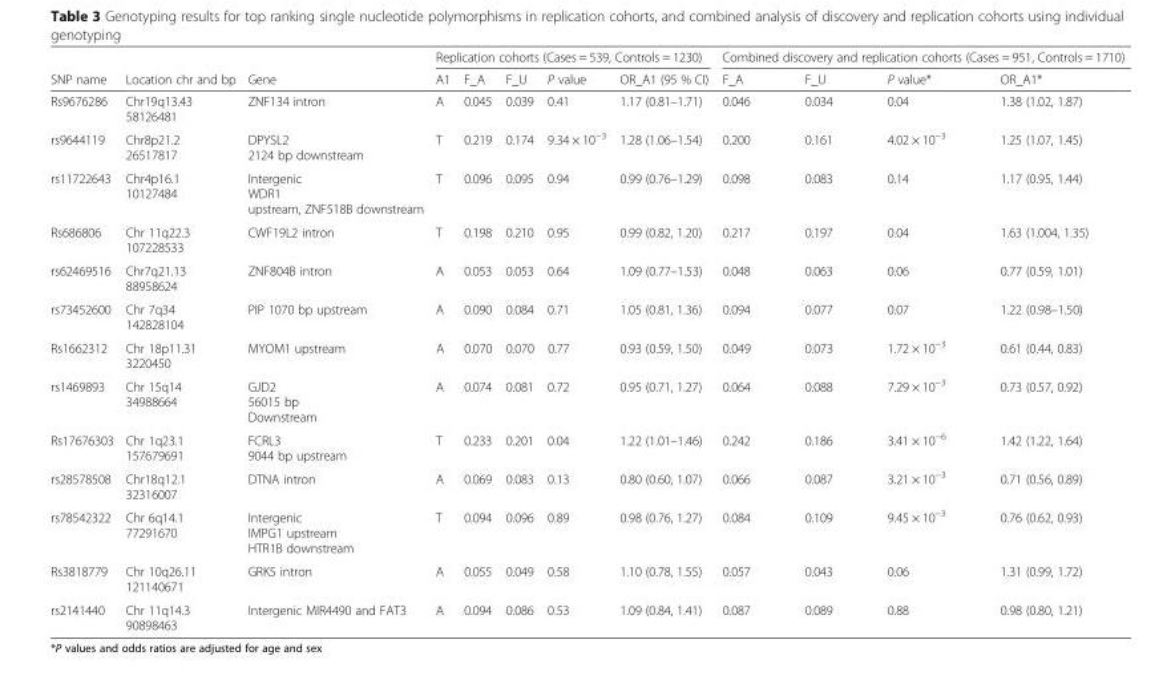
<table><thead><tr><td rowspan="2">SNP name</td><td rowspan="2">Location chr and bp</td><td rowspan="2">Gene</td><td colspan="5">Replication cohorts (Cases = 539, Controls = 1230)</td><td colspan="4">Combined discovery and replication cohorts (Cases = 951, Controls = 1710)</td></tr><tr><td>A1</td><td>F_A</td><td>F_U</td><td>P value</td><td>OR_A1 (95 % CI)</td><td>F_A</td><td>F_U</td><td>P value*</td><td>OR_A1*</td></tr></thead><tbody><tr><td>Rs9676286</td><td>Chr19q13.43 58126481</td><td>ZNF134 intron</td><td>A</td><td>0.045</td><td>0.039</td><td>0.41</td><td>1.17 (0.81–1.71)</td><td>0.046</td><td>0.034</td><td>0.04</td><td>1.38 (1.02, 1.87)</td></tr><tr><td>rs9644119</td><td>Chr8p21.2 26517817</td><td>DPYSL2 2124 bp downstream</td><td>T</td><td>0.219</td><td>0.174</td><td>9.34 × 10<sup>−3</sup></td><td>1.28 (1.06–1.54)</td><td>0.200</td><td>0.161</td><td>4.02 × 10<sup>−3</sup></td><td>1.25 (1.07, 1.45)</td></tr><tr><td>rs11722643</td><td>Chr4p16.1 10127484</td><td>Intergenic WDR1 upstream, ZNF518B downstream</td><td>T</td><td>0.096</td><td>0.095</td><td>0.94</td><td>0.99 (0.76–1.29)</td><td>0.098</td><td>0.083</td><td>0.14</td><td>1.17 (0.95, 1.44)</td></tr><tr><td>Rs686806</td><td>Chr 11q22.3 107228533</td><td>CWF19L2 intron</td><td>T</td><td>0.198</td><td>0.210</td><td>0.95</td><td>0.99 (0.82, 1.20)</td><td>0.217</td><td>0.197</td><td>0.04</td><td>1.63 (1.004, 1.35)</td></tr><tr><td>rs62469516</td><td>Chr7q21.13 88958624</td><td>ZNF804B intron</td><td>A</td><td>0.053</td><td>0.053</td><td>0.64</td><td>1.09 (0.77–1.53)</td><td>0.048</td><td>0.063</td><td>0.06</td><td>0.77 (0.59, 1.01)</td></tr><tr><td>rs73452600</td><td>Chr 7q34 142828104</td><td>PIP 1070 bp upstream</td><td>A</td><td>0.090</td><td>0.084</td><td>0.71</td><td>1.05 (0.81, 1.36)</td><td>0.094</td><td>0.077</td><td>0.07</td><td>1.22 (0.98–1.50)</td></tr><tr><td>Rs1662312</td><td>Chr 18p11.31 3220450</td><td>MYOM1 upstream</td><td>A</td><td>0.070</td><td>0.070</td><td>0.77</td><td>0.93 (0.59, 1.50)</td><td>0.049</td><td>0.073</td><td>1.72 × 10<sup>−3</sup></td><td>0.61 (0.44, 0.83)</td></tr><tr><td>rs1469893</td><td>Chr 15q14 34988664</td><td>GJD2 56015 bp Downstream</td><td>A</td><td>0.074</td><td>0.081</td><td>0.72</td><td>0.95 (0.71, 1.27)</td><td>0.064</td><td>0.088</td><td>7.29 × 10<sup>−3</sup></td><td>0.73 (0.57, 0.92)</td></tr><tr><td>Rs17676303</td><td>Chr 1q23.1 157679691</td><td>FCRL3 9044 bp upstream</td><td>T</td><td>0.233</td><td>0.201</td><td>0.04</td><td>1.22 (1.01–1.46)</td><td>0.242</td><td>0.186</td><td>3.41 × 10<sup>−6</sup></td><td>1.42 (1.22, 1.64)</td></tr><tr><td>rs28578508</td><td>Chr18q12.1 32316007</td><td>DTNA intron</td><td>A</td><td>0.069</td><td>0.083</td><td>0.13</td><td>0.80 (0.60, 1.07)</td><td>0.066</td><td>0.087</td><td>3.21 × 10<sup>−3</sup></td><td>0.71 (0.56, 0.89)</td></tr><tr><td>rs78542322</td><td>Chr 6q14.1 77291670</td><td>Intergenic IMPG1 upstream HTR1B downstream</td><td>T</td><td>0.094</td><td>0.096</td><td>0.89</td><td>0.98 (0.76, 1.27)</td><td>0.084</td><td>0.109</td><td>9.45 × 10<sup>−3</sup></td><td>0.76 (0.62, 0.93)</td></tr><tr><td>Rs3818779</td><td>Chr 10q26.11 121140671</td><td>GRK5 intron</td><td>A</td><td>0.055</td><td>0.049</td><td>0.58</td><td>1.10 (0.78, 1.55)</td><td>0.057</td><td>0.043</td><td>0.06</td><td>1.31 (0.99, 1.72)</td></tr><tr><td>rs2141440</td><td>Chr 11q14.3 90898463</td><td>Intergenic MIR4490 and FAT3</td><td>A</td><td>0.094</td><td>0.086</td><td>0.53</td><td>1.09 (0.84, 1.41)</td><td>0.087</td><td>0.089</td><td>0.88</td><td>0.98 (0.80, 1.21)</td></tr></tbody></table>